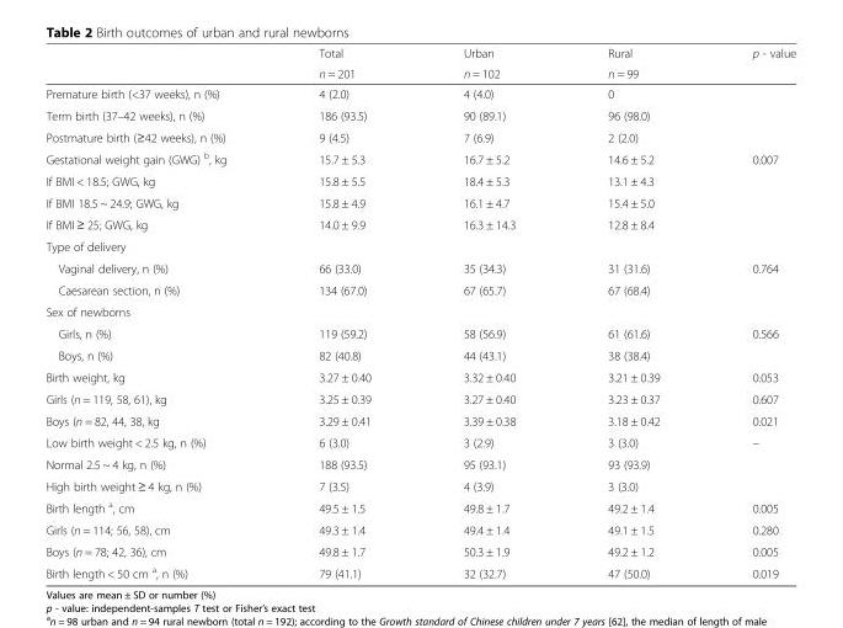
<table><thead><tr><td rowspan="2"></td><td rowspan="2">Total n = 201</td><td rowspan="2">Urban n = 102</td><td rowspan="2">Rural n = 99</td><td rowspan="2">p - value</td></tr><tr></tr></thead><tbody><tr><td>Premature birth (&lt;37 weeks), n (%)</td><td>4 (2.0)</td><td>4 (4.0)</td><td>0</td><td></td></tr><tr><td>Term birth (37–42 weeks), n (%)</td><td>186 (93.5)</td><td>90 (89.1)</td><td>96 (98.0)</td><td></td></tr><tr><td>Postmature birth (≥42 weeks), n (%)</td><td>9 (4.5)</td><td>7 (6.9)</td><td>2 (2.0)</td><td></td></tr><tr><td>Gestational weight gain (GWG) <sup>b</sup>, kg</td><td>15.7 ± 5.3</td><td>16.7 ± 5.2</td><td>14.6 ± 5.2</td><td>0.007</td></tr><tr><td>If BMI &lt; 18.5; GWG, kg</td><td>15.8 ± 5.5</td><td>18.4 ± 5.3</td><td>13.1 ± 4.3</td><td></td></tr><tr><td>If BMI 18.5 ~ 24.9; GWG, kg</td><td>15.8 ± 4.9</td><td>16.1 ± 4.7</td><td>15.4 ± 5.0</td><td></td></tr><tr><td>If BMI ≥ 25; GWG, kg</td><td>14.0 ± 9.9</td><td>16.3 ± 14.3</td><td>12.8 ± 8.4</td><td></td></tr><tr><td colspan="5">Type of delivery</td></tr><tr><td>Vaginal delivery, n (%)</td><td>66 (33.0)</td><td>35 (34.3)</td><td>31 (31.6)</td><td>0.764</td></tr><tr><td>Caesarean section, n (%)</td><td>134 (67.0)</td><td>67 (65.7)</td><td>67 (68.4)</td><td></td></tr><tr><td colspan="5">Sex of newborns</td></tr><tr><td>Girls, n (%)</td><td>119 (59.2)</td><td>58 (56.9)</td><td>61 (61.6)</td><td>0.566</td></tr><tr><td>Boys, n (%)</td><td>82 (40.8)</td><td>44 (43.1)</td><td>38 (38.4)</td><td></td></tr><tr><td>Birth weight, kg</td><td>3.27 ± 0.40</td><td>3.32 ± 0.40</td><td>3.21 ± 0.39</td><td>0.053</td></tr><tr><td>Girls (n = 119, 58, 61), kg</td><td>3.25 ± 0.39</td><td>3.27 ± 0.40</td><td>3.23 ± 0.37</td><td>0.607</td></tr><tr><td>Boys (n = 82, 44, 38, kg</td><td>3.29 ± 0.41</td><td>3.39 ± 0.38</td><td>3.18 ± 0.42</td><td>0.021</td></tr><tr><td>Low birth weight &lt; 2.5 kg, n (%)</td><td>6 (3.0)</td><td>3 (2.9)</td><td>3 (3.0)</td><td>–</td></tr><tr><td>Normal 2.5 ~ 4 kg, n (%)</td><td>188 (93.5)</td><td>95 (93.1)</td><td>93 (93.9)</td><td></td></tr><tr><td>High birth weight ≥ 4 kg, n (%)</td><td>7 (3.5)</td><td>4 (3.9)</td><td>3 (3.0)</td><td></td></tr><tr><td>Birth length <sup>a</sup>, cm</td><td>49.5 ± 1.5</td><td>49.8 ± 1.7</td><td>49.2 ± 1.4</td><td>0.005</td></tr><tr><td>Girls (n = 114; 56, 58), cm</td><td>49.3 ± 1.4</td><td>49.4 ± 1.4</td><td>49.1 ± 1.5</td><td>0.280</td></tr><tr><td>Boys (n = 78; 42, 36), cm</td><td>49.8 ± 1.7</td><td>50.3 ± 1.9</td><td>49.2 ± 1.2</td><td>0.005</td></tr><tr><td>Birth length &lt; 50 cm <sup>a</sup>, n (%)</td><td>79 (41.1)</td><td>32 (32.7)</td><td>47 (50.0)</td><td>0.019</td></tr></tbody></table>